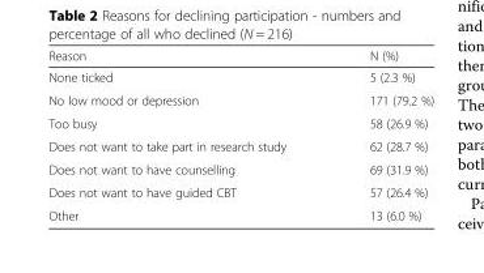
<table><thead><tr><td>Reason</td><td>N (%)</td></tr></thead><tbody><tr><td>None ticked</td><td>5 (2.3 %)</td></tr><tr><td>No low mood or depression</td><td>171 (79.2 %)</td></tr><tr><td>Too busy</td><td>58 (26.9 %)</td></tr><tr><td>Does not want to take part in research study</td><td>62 (28.7 %)</td></tr><tr><td>Does not want to have counselling</td><td>69 (31.9 %)</td></tr><tr><td>Does not want to have guided CBT</td><td>57 (26.4 %)</td></tr><tr><td>Other</td><td>13 (6.0 %)</td></tr></tbody></table>